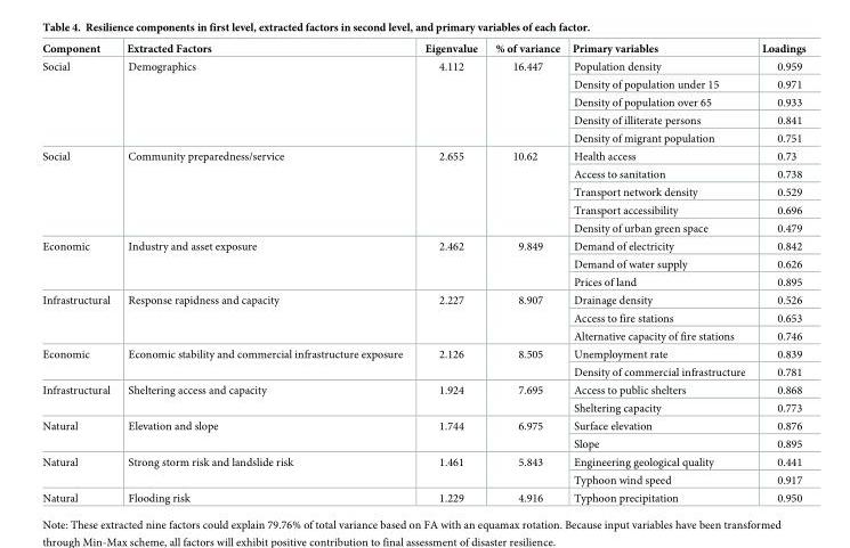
<table><thead><tr><td>Component</td><td>Extracted Factors</td><td>Eigenvalue</td><td>% of variance</td><td>Primary variables</td><td>Loadings</td></tr></thead><tbody><tr><td rowspan="5">Social</td><td rowspan="5">Demographics</td><td rowspan="5">4.112</td><td rowspan="5">16.447</td><td>Population density</td><td>0.959</td></tr><tr><td>Density of population under 15</td><td>0.971</td></tr><tr><td>Density of population over 65</td><td>0.933</td></tr><tr><td>Density of illiterate persons</td><td>0.841</td></tr><tr><td>Density of migrant population</td><td>0.751</td></tr><tr><td rowspan="5">Social</td><td rowspan="5">Community preparedness/service</td><td rowspan="5">2.655</td><td rowspan="5">10.62</td><td>Health access</td><td>0.73</td></tr><tr><td>Access to sanitation</td><td>0.738</td></tr><tr><td>Transport network density</td><td>0.529</td></tr><tr><td>Transport accessibility</td><td>0.696</td></tr><tr><td>Density of urban green space</td><td>0.479</td></tr><tr><td rowspan="3">Economic</td><td rowspan="3">Industry and asset exposure</td><td rowspan="3">2.462</td><td rowspan="3">9.849</td><td>Demand of electricity</td><td>0.842</td></tr><tr><td>Demand of water supply</td><td>0.626</td></tr><tr><td>Prices of land</td><td>0.895</td></tr><tr><td rowspan="3">Infrastructural</td><td rowspan="3">Response rapidness and capacity</td><td rowspan="3">2.227</td><td rowspan="3">8.907</td><td>Drainage density</td><td>0.526</td></tr><tr><td>Access to fire stations</td><td>0.653</td></tr><tr><td>Alternative capacity of fire stations</td><td>0.746</td></tr><tr><td rowspan="2">Economic</td><td rowspan="2">Economic stability and commercial infrastructure exposure</td><td rowspan="2">2.126</td><td rowspan="2">8.505</td><td>Unemployment rate</td><td>0.839</td></tr><tr><td>Density of commercial infrastructure</td><td>0.781</td></tr><tr><td rowspan="2">Infrastructural</td><td rowspan="2">Sheltering access and capacity</td><td rowspan="2">1.924</td><td rowspan="2">7.695</td><td>Access to public shelters</td><td>0.868</td></tr><tr><td>Sheltering capacity</td><td>0.773</td></tr><tr><td rowspan="2">Natural</td><td rowspan="2">Elevation and slope</td><td rowspan="2">1.744</td><td rowspan="2">6.975</td><td>Surface elevation</td><td>0.876</td></tr><tr><td>Slope</td><td>0.895</td></tr><tr><td rowspan="2">Natural</td><td rowspan="2">Strong storm risk and landslide risk</td><td rowspan="2">1.461</td><td rowspan="2">5.843</td><td>Engineering geological quality</td><td>0.441</td></tr><tr><td>Typhoon wind speed</td><td>0.917</td></tr><tr><td>Natural</td><td>Flooding risk</td><td>1.229</td><td>4.916</td><td>Typhoon precipitation</td><td>0.950</td></tr></tbody></table>